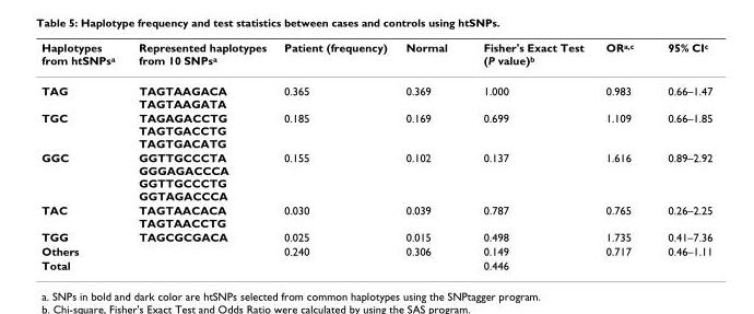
<table><thead><tr><td>Haplotypes from htSNPsa</td><td>Represented haplotypes from 10 SNPsa</td><td>Patient (frequency)</td><td>Normal</td><td>Fisher&#x27;s Exact Test (P value)b</td><td>ORa,c</td><td>95% CIc</td></tr></thead><tbody><tr><td>TAG</td><td>TAGTAAGACA TAGTAAGATA</td><td>0.365</td><td>0.369</td><td>1.000</td><td>0.983</td><td>0.66–1.47</td></tr><tr><td>TGC</td><td>TAGAGACCTG TAGTGACCTG TAGTGACATG</td><td>0.185</td><td>0.169</td><td>0.699</td><td>1.109</td><td>0.66–1.85</td></tr><tr><td>GGC</td><td>GGTTGCCCTA GGGAGACCCA GGTTGCCCTG GGTAGACCCA</td><td>0.155</td><td>0.102</td><td>0.137</td><td>1.616</td><td>0.89–2.92</td></tr><tr><td>TAC</td><td>TAGTAACACA TAGTAACCTG</td><td>0.030</td><td>0.039</td><td>0.787</td><td>0.765</td><td>0.26–2.25</td></tr><tr><td>TGG</td><td>TAGCGCGACA</td><td>0.025</td><td>0.015</td><td>0.498</td><td>1.735</td><td>0.41–7.36</td></tr><tr><td>Others</td><td></td><td>0.240</td><td>0.306</td><td>0.149</td><td>0.717</td><td>0.46–1.11</td></tr><tr><td>Total</td><td></td><td></td><td></td><td>0.446</td><td></td><td></td></tr></tbody></table>